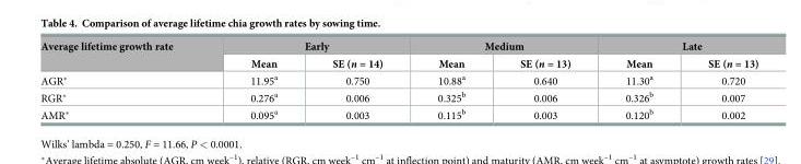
<table><thead><tr><td rowspan="2">Average lifetime growth rate</td><td colspan="2">Early</td><td colspan="2">Medium</td><td colspan="2">Late</td></tr><tr><td>Mean</td><td>SE (n = 14)</td><td>Mean</td><td>SE (n = 13)</td><td>Mean</td><td>SE (n = 13)</td></tr></thead><tbody><tr><td>AGR*</td><td>11.95<sup>a</sup></td><td>0.750</td><td>10.88<sup>a</sup></td><td>0.640</td><td>11.30<sup>a</sup></td><td>0.720</td></tr><tr><td>RGR*</td><td>0.276<sup>a</sup></td><td>0.006</td><td>0.325<sup>b</sup></td><td>0.006</td><td>0.326<sup>b</sup></td><td>0.007</td></tr><tr><td>AMR*</td><td>0.095<sup>a</sup></td><td>0.003</td><td>0.115<sup>b</sup></td><td>0.003</td><td>0.120<sup>b</sup></td><td>0.002</td></tr></tbody></table>